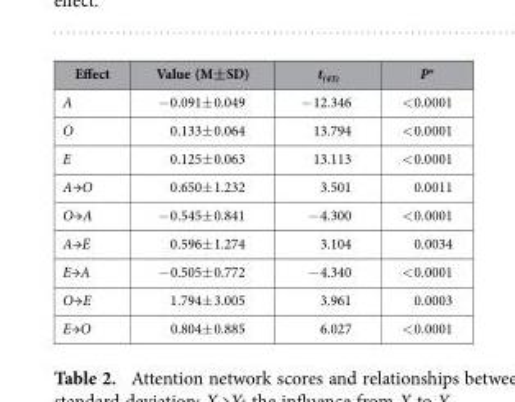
<table><thead><tr><td>Effect</td><td>Value (M±SD)</td><td>t<sub>(43)</sub></td><td>P*</td></tr></thead><tbody><tr><td>A</td><td>− 0.091± 0.049</td><td>− 12.346</td><td>&lt; 0.0001</td></tr><tr><td>O</td><td>0.133± 0.064</td><td>13.794</td><td>&lt; 0.0001</td></tr><tr><td>E</td><td>0.125± 0.063</td><td>13.113</td><td>&lt; 0.0001</td></tr><tr><td>A→O</td><td>0.650± 1.232</td><td>3.501</td><td>0.0011</td></tr><tr><td>O→A</td><td>− 0.545± 0.841</td><td>− 4.300</td><td>&lt; 0.0001</td></tr><tr><td>A→E</td><td>0.596± 1.274</td><td>3.104</td><td>0.0034</td></tr><tr><td>E→A</td><td>− 0.505± 0.772</td><td>− 4.340</td><td>&lt; 0.0001</td></tr><tr><td>O→E</td><td>1.794± 3.005</td><td>3.961</td><td>0.0003</td></tr><tr><td>E→O</td><td>0.804± 0.885</td><td>6.027</td><td>&lt; 0.0001</td></tr></tbody></table>